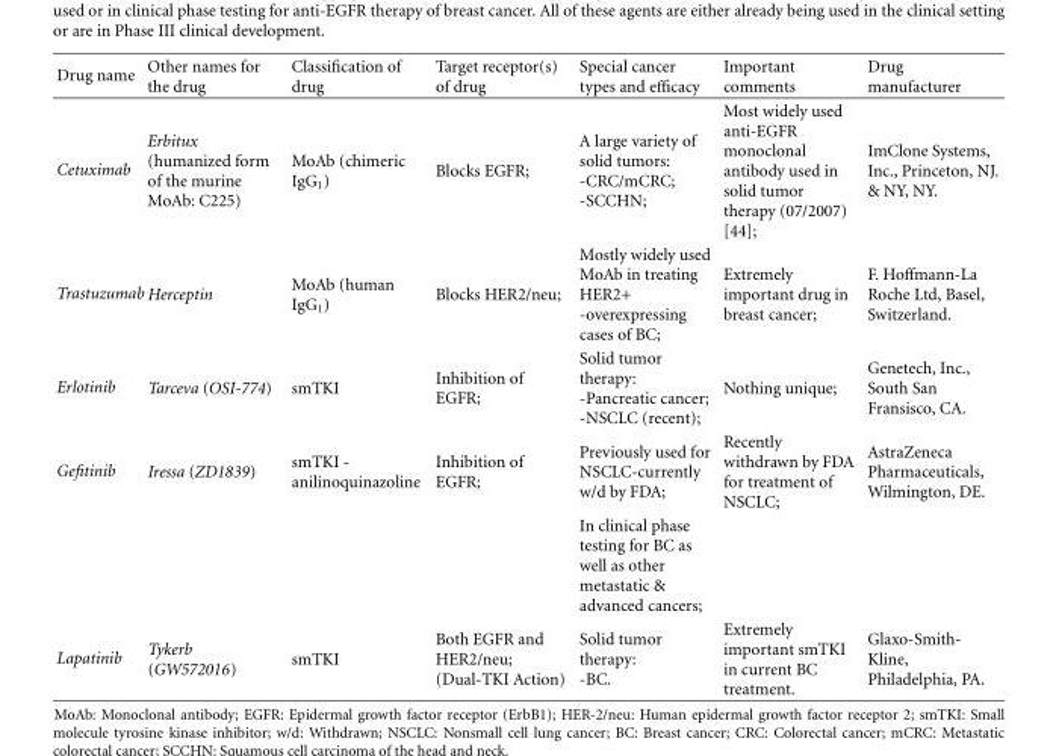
<table><thead><tr><td>Drug name</td><td>Other names for the drug</td><td>Classification of drug</td><td>Target receptor(s) of drug</td><td>Special cancer types and efficacy</td><td>Important comments</td><td>Drug manufacturer</td></tr></thead><tbody><tr><td>Cetuximab</td><td>Erbitux (humanized form of the murine MoAb: C225)</td><td>MoAb (chimeric IgG<sub>1</sub>)</td><td>Blocks EGFR;</td><td>A large variety of solid tumors: -CRC/mCRC; -SCCHN;</td><td>Most widely used anti-EGFR monoclonal antibody used in solid tumor therapy (07/2007) [44];</td><td>ImClone Systems, Inc., Princeton, NJ. &amp; NY, NY.</td></tr><tr><td>Trastuzumab</td><td>Herceptin</td><td>MoAb (human IgG<sub>1</sub>)</td><td>Blocks HER2/neu;</td><td>Mostly widely used MoAb in treating HER2+ -overexpressing cases of BC;</td><td>Extremely important drug in breast cancer;</td><td>F. Hoffmann-La Roche Ltd, Basel, Switzerland.</td></tr><tr><td>Erlotinib</td><td>Tarceva (OSI-774)</td><td>smTKI</td><td>Inhibition of EGFR;</td><td>Solid tumor therapy: -Pancreatic cancer; -NSCLC (recent);</td><td>Nothing unique;</td><td>Genetech, Inc., South San Fransisco, CA.</td></tr><tr><td rowspan="2">Gefitinib</td><td>Iressa (ZD1839)</td><td>smTKI - anilinoquinazoline</td><td>Inhibition of EGFR;</td><td>Previously used for NSCLC-currently w/d by FDA;</td><td>Recently withdrawn by FDA for treatment of NSCLC;</td><td>AstraZeneca Pharmaceuticals, Wilmington, DE.</td></tr><tr><td></td><td></td><td></td><td>In clinical phase testing for BC as well as other metastatic &amp; advanced cancers;</td><td></td><td></td></tr><tr><td>Lapatinib</td><td>Tykerb (GW572016)</td><td>smTKI</td><td>Both EGFR and HER2/neu; (Dual-TKI Action)</td><td>Solid tumor therapy: -BC.</td><td>Extremely important smTKI in current BC treatment.</td><td>Glaxo-Smith- Kline, Philadelphia, PA.</td></tr></tbody></table>